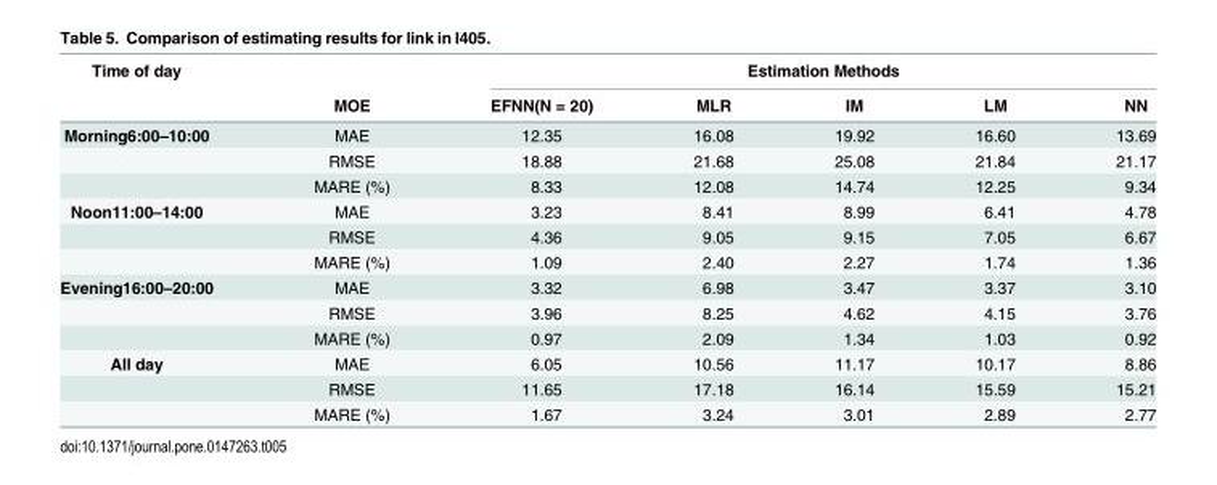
<table><thead><tr><td rowspan="2">Time of day</td><td rowspan="2">MOE</td><td colspan="5">Estimation Methods</td></tr><tr><td>EFNN(N = 20)</td><td>MLR</td><td>IM</td><td>LM</td><td>NN</td></tr></thead><tbody><tr><td rowspan="3">Morning6:00–10:00</td><td>MAE</td><td>12.35</td><td>16.08</td><td>19.92</td><td>16.60</td><td>13.69</td></tr><tr><td>RMSE</td><td>18.88</td><td>21.68</td><td>25.08</td><td>21.84</td><td>21.17</td></tr><tr><td>MARE (%)</td><td>8.33</td><td>12.08</td><td>14.74</td><td>12.25</td><td>9.34</td></tr><tr><td rowspan="3">Noon11:00–14:00</td><td>MAE</td><td>3.23</td><td>8.41</td><td>8.99</td><td>6.41</td><td>4.78</td></tr><tr><td>RMSE</td><td>4.36</td><td>9.05</td><td>9.15</td><td>7.05</td><td>6.67</td></tr><tr><td>MARE (%)</td><td>1.09</td><td>2.40</td><td>2.27</td><td>1.74</td><td>1.36</td></tr><tr><td rowspan="3">Evening16:00–20:00</td><td>MAE</td><td>3.32</td><td>6.98</td><td>3.47</td><td>3.37</td><td>3.10</td></tr><tr><td>RMSE</td><td>3.96</td><td>8.25</td><td>4.62</td><td>4.15</td><td>3.76</td></tr><tr><td>MARE (%)</td><td>0.97</td><td>2.09</td><td>1.34</td><td>1.03</td><td>0.92</td></tr><tr><td rowspan="3">All day</td><td>MAE</td><td>6.05</td><td>10.56</td><td>11.17</td><td>10.17</td><td>8.86</td></tr><tr><td>RMSE</td><td>11.65</td><td>17.18</td><td>16.14</td><td>15.59</td><td>15.21</td></tr><tr><td>MARE (%)</td><td>1.67</td><td>3.24</td><td>3.01</td><td>2.89</td><td>2.77</td></tr></tbody></table>